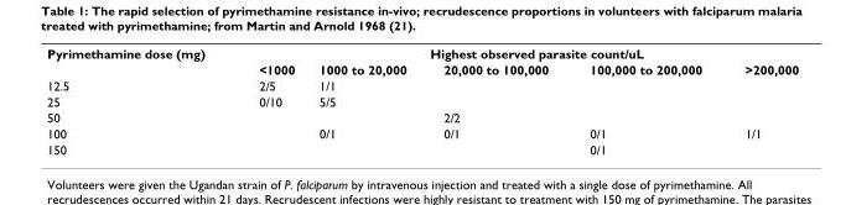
<table><tbody><tr><td rowspan="2">Pyrimethamine dose (mg)</td><td colspan="5">Highest observed parasite count/uL</td></tr><tr><td>&lt;1000</td><td>1000 to 20,000</td><td>20,000 to 100,000</td><td>100,000 to 200,000</td><td>&gt;200,000</td></tr><tr><td>12.5</td><td>2/5</td><td>1/1</td><td></td><td></td><td></td></tr><tr><td>25</td><td>0/10</td><td>5/5</td><td></td><td></td><td></td></tr><tr><td>50</td><td></td><td></td><td>2/2</td><td></td><td></td></tr><tr><td>100</td><td></td><td>0/1</td><td>0/1</td><td>0/1</td><td>1/1</td></tr><tr><td>150</td><td></td><td></td><td></td><td>0/1</td><td></td></tr></tbody></table>